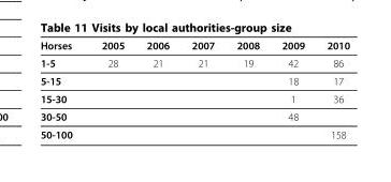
<table><thead><tr><td>Horses</td><td>2005</td><td>2006</td><td>2007</td><td>2008</td><td>2009</td><td>2010</td></tr></thead><tbody><tr><td>1-5</td><td>28</td><td>21</td><td>21</td><td>19</td><td>42</td><td>86</td></tr><tr><td>5-15</td><td></td><td></td><td></td><td></td><td>18</td><td>17</td></tr><tr><td>15-30</td><td></td><td></td><td></td><td></td><td>1</td><td>36</td></tr><tr><td>30-50</td><td></td><td></td><td></td><td></td><td>48</td><td></td></tr><tr><td>50-100</td><td></td><td></td><td></td><td></td><td></td><td>158</td></tr></tbody></table>